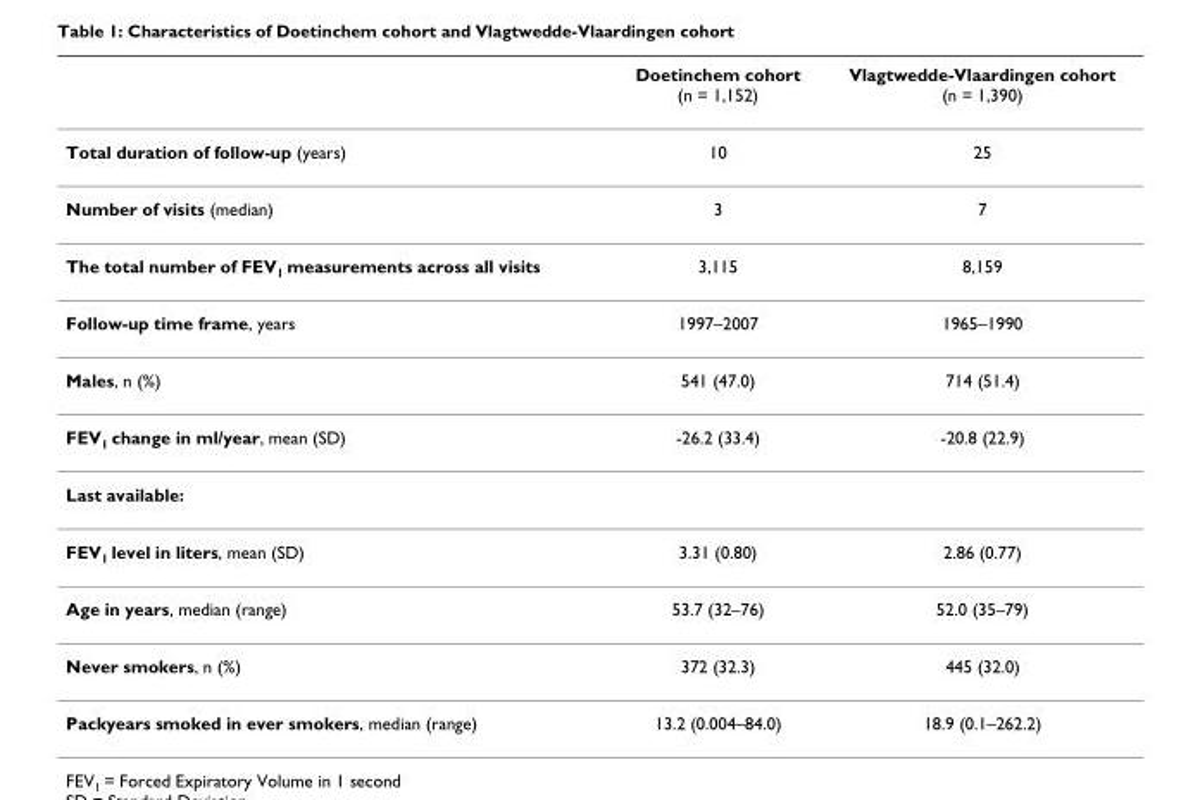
<table><thead><tr><td></td><td>Doetinchem cohort (n = 1,152)</td><td>Vlagtwedde-Vlaardingen cohort (n = 1,390)</td></tr></thead><tbody><tr><td>Total duration of follow-up (years)</td><td>10</td><td>25</td></tr><tr><td>Number of visits (median)</td><td>3</td><td>7</td></tr><tr><td>The total number of FEV<sub>1</sub> measurements across all visits</td><td>3,115</td><td>8,159</td></tr><tr><td>Follow-up time frame, years</td><td>1997–2007</td><td>1965–1990</td></tr><tr><td>Males, n (%)</td><td>541 (47.0)</td><td>714 (51.4)</td></tr><tr><td>FEV<sub>1</sub> change in ml/year, mean (SD)</td><td>-26.2 (33.4)</td><td>-20.8 (22.9)</td></tr><tr><td colspan="3">Last available:</td></tr><tr><td>FEV<sub>1</sub> level in liters, mean (SD)</td><td>3.31 (0.80)</td><td>2.86 (0.77)</td></tr><tr><td>Age in years, median (range)</td><td>53.7 (32–76)</td><td>52.0 (35–79)</td></tr><tr><td>Never smokers, n (%)</td><td>372 (32.3)</td><td>445 (32.0)</td></tr><tr><td>Packyears smoked in ever smokers, median (range)</td><td>13.2 (0.004–84.0)</td><td>18.9 (0.1–262.2)</td></tr></tbody></table>